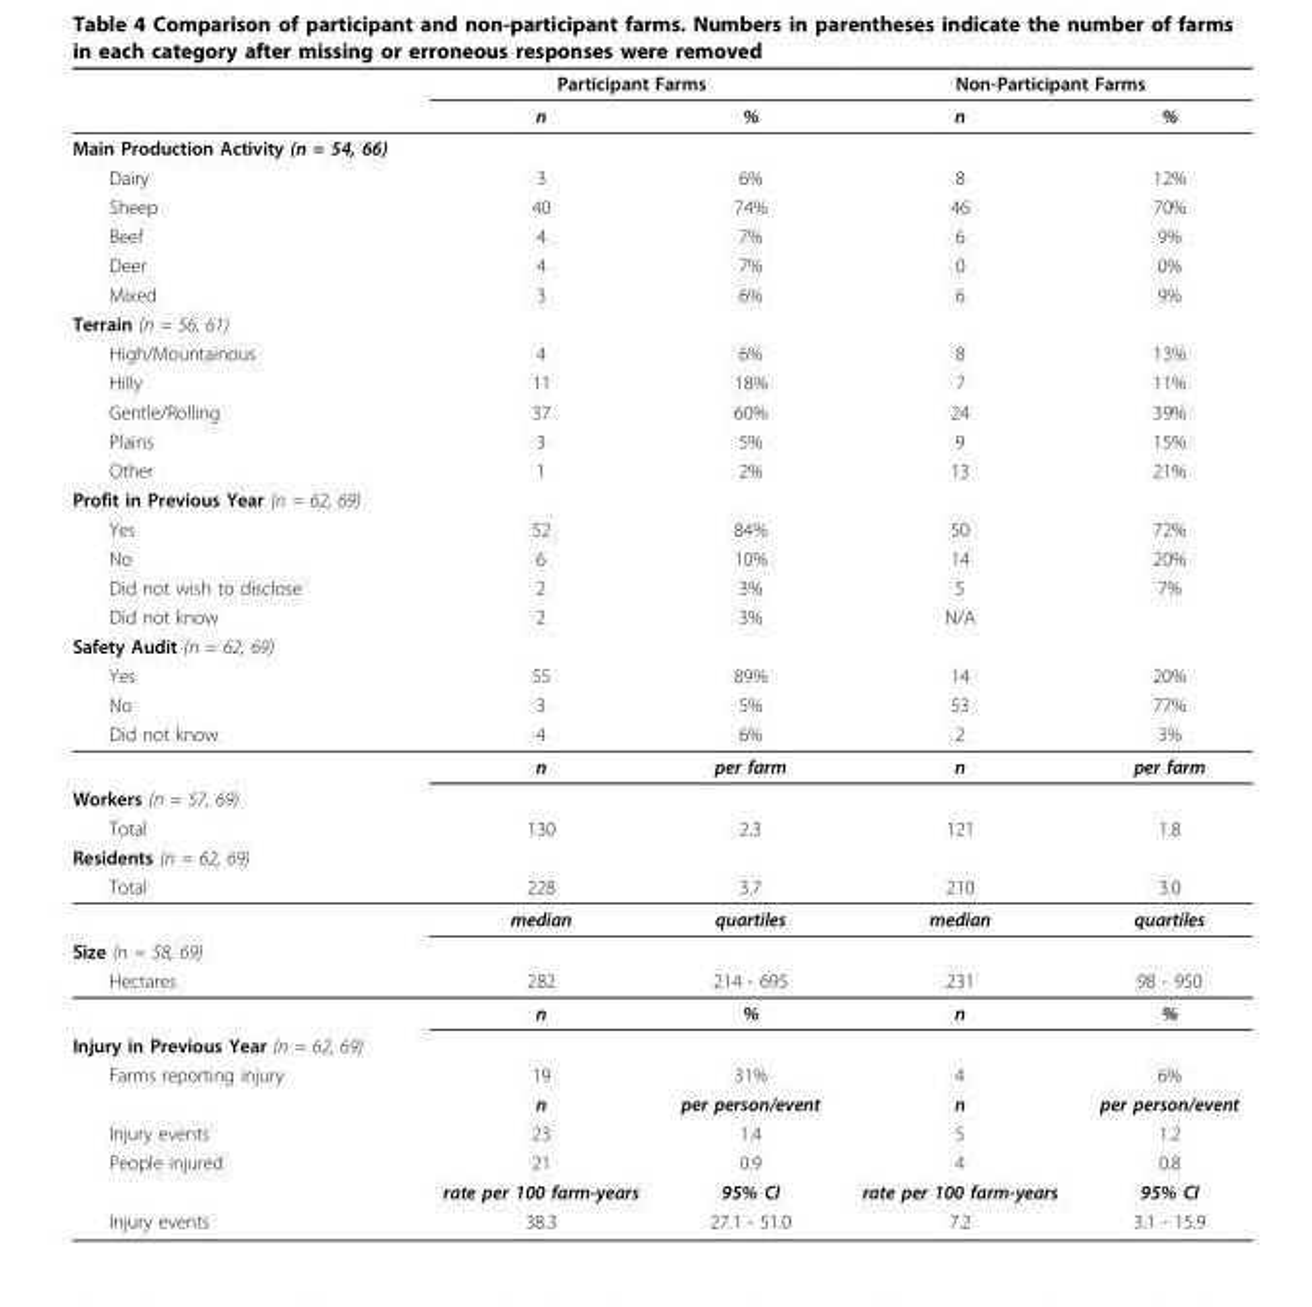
<table><thead><tr><td rowspan="2"></td><td colspan="2">Participant Farms</td><td colspan="2">Non-Participant Farms</td></tr><tr><td>n</td><td>%</td><td>n</td><td>%</td></tr></thead><tbody><tr><td colspan="5">Main Production Activity (n = 54, 66)</td></tr><tr><td>Dairy</td><td>3</td><td>6%</td><td>8</td><td>12%</td></tr><tr><td>Sheep</td><td>40</td><td>74%</td><td>46</td><td>70%</td></tr><tr><td>Beef</td><td>4</td><td>7%</td><td>6</td><td>9%</td></tr><tr><td>Deer</td><td>4</td><td>7%</td><td>0</td><td>0%</td></tr><tr><td>Mixed</td><td>3</td><td>6%</td><td>6</td><td>9%</td></tr><tr><td colspan="5">Terrain (n = 56, 61)</td></tr><tr><td>High/Mountainous</td><td>4</td><td>6%</td><td>8</td><td>13%</td></tr><tr><td>Hilly</td><td>11</td><td>18%</td><td>7</td><td>11%</td></tr><tr><td>Gentle/Rolling</td><td>37</td><td>60%</td><td>24</td><td>39%</td></tr><tr><td>Plains</td><td>3</td><td>5%</td><td>9</td><td>15%</td></tr><tr><td>Other</td><td>1</td><td>2%</td><td>13</td><td>21%</td></tr><tr><td colspan="5">Profit in Previous Year (n = 62, 69)</td></tr><tr><td>Yes</td><td>52</td><td>84%</td><td>50</td><td>72%</td></tr><tr><td>No</td><td>6</td><td>10%</td><td>14</td><td>20%</td></tr><tr><td>Did not wish to disclose</td><td>2</td><td>3%</td><td>5</td><td>7%</td></tr><tr><td>Did not know</td><td>2</td><td>3%</td><td>N/A</td><td></td></tr><tr><td colspan="5">Safety Audit (n = 62, 69)</td></tr><tr><td>Yes</td><td>55</td><td>89%</td><td>14</td><td>20%</td></tr><tr><td>No</td><td>3</td><td>5%</td><td>53</td><td>77%</td></tr><tr><td rowspan="2">Did not know</td><td>4</td><td>6%</td><td>2</td><td>3%</td></tr><tr><td>n</td><td>per farm</td><td>n</td><td>per farm</td></tr><tr><td colspan="5">Workers (n = 57, 69)</td></tr><tr><td>Total</td><td>130</td><td>2.3</td><td>121</td><td>1.8</td></tr><tr><td colspan="5">Residents (n = 62, 69)</td></tr><tr><td rowspan="2">Total</td><td>228</td><td>3.7</td><td>210</td><td>3.0</td></tr><tr><td>median</td><td>quartiles</td><td>median</td><td>quartiles</td></tr><tr><td colspan="5">Size (n = 58, 69)</td></tr><tr><td rowspan="2">Hectares</td><td>282</td><td>214 - 695</td><td>231</td><td>98 - 950</td></tr><tr><td>n</td><td>%</td><td>n</td><td>%</td></tr><tr><td colspan="5">Injury in Previous Year (n = 62, 69)</td></tr><tr><td rowspan="2">Farms reporting injury</td><td>19</td><td>31%</td><td>4</td><td>6%</td></tr><tr><td>n</td><td>per person/event</td><td>n</td><td>per person/event</td></tr><tr><td>Injury events</td><td>23</td><td>1.4</td><td>5</td><td>1.2</td></tr><tr><td rowspan="2">People injured</td><td>21</td><td>0.9</td><td>4</td><td>0.8</td></tr><tr><td>rate per 100 farm-years</td><td>95% CI</td><td>rate per 100 farm-years</td><td>95% CI</td></tr><tr><td>Injury events</td><td>38.3</td><td>27.1 - 51.0</td><td>7.2</td><td>3.1 - 15.9</td></tr></tbody></table>